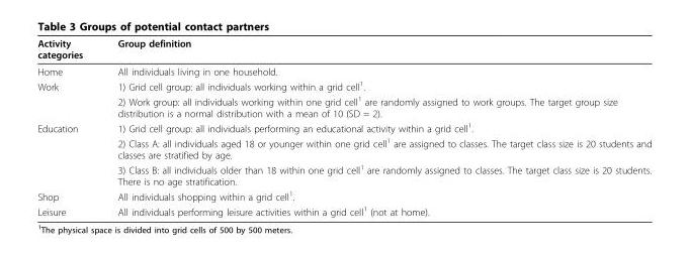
<table><thead><tr><td>Activity categories</td><td>Group definition</td></tr></thead><tbody><tr><td>Home</td><td>All individuals living in one household.</td></tr><tr><td rowspan="2">Work</td><td>1) Grid cell group: all individuals working within a grid cell<sup>1</sup>.</td></tr><tr><td>2) Work group: all individuals working within one grid cell<sup>1</sup> are randomly assigned to work groups. The target group size distribution is a normal distribution with a mean of 10 (SD = 2).</td></tr><tr><td rowspan="3">Education</td><td>1) Grid cell group: all individuals performing an educational activity within a grid cell<sup>1</sup>.</td></tr><tr><td>2) Class A: all individuals aged 18 or younger within one grid cell<sup>1</sup> are assigned to classes. The target class size is 20 students and classes are stratified by age.</td></tr><tr><td>3) Class B: all individuals older than 18 within one grid cell<sup>1</sup> are randomly assigned to classes. The target class size is 20 students. There is no age stratification.</td></tr><tr><td>Shop</td><td>All individuals shopping within a grid cell<sup>1</sup>.</td></tr><tr><td>Leisure</td><td>All individuals performing leisure activities within a grid cell<sup>1</sup> (not at home).</td></tr></tbody></table>